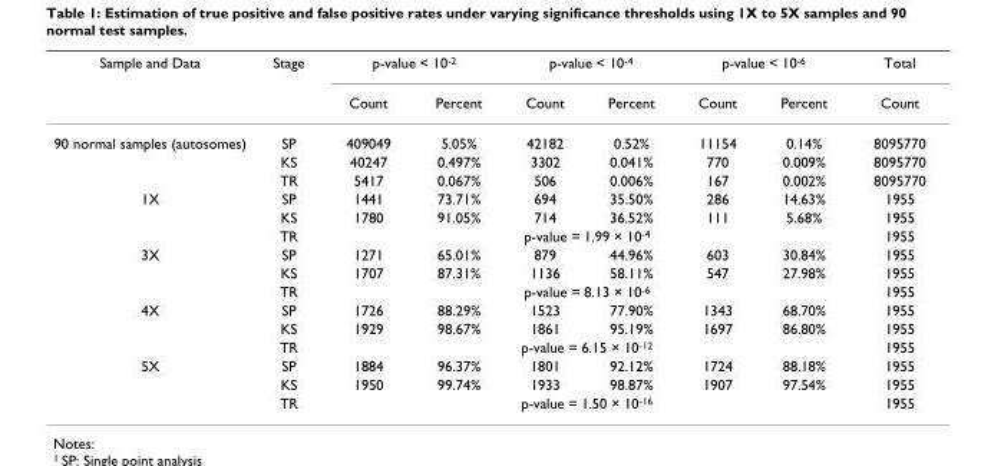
<table><thead><tr><td rowspan="2">Sample and Data</td><td rowspan="2">Stage</td><td colspan="2">p-value &lt; 10<sup>-2</sup></td><td colspan="2">p-value &lt; 10<sup>-4</sup></td><td colspan="2">p-value &lt; 10<sup>-6</sup></td><td rowspan="2">Total Count</td></tr><tr><td>Count</td><td>Percent</td><td>Count</td><td>Percent</td><td>Count</td><td>Percent</td></tr></thead><tbody><tr><td rowspan="3">90 normal samples (autosomes)</td><td>SP</td><td>409049</td><td>5.05%</td><td>42182</td><td>0.52%</td><td>11154</td><td>0.14%</td><td>8095770</td></tr><tr><td>KS</td><td>40247</td><td>0.497%</td><td>3302</td><td>0.041%</td><td>770</td><td>0.009%</td><td>8095770</td></tr><tr><td>TR</td><td>5417</td><td>0.067%</td><td>506</td><td>0.006%</td><td>167</td><td>0.002%</td><td>8095770</td></tr><tr><td rowspan="3">1X</td><td>SP</td><td>1441</td><td>73.71%</td><td>694</td><td>35.50%</td><td>286</td><td>14.63%</td><td>1955</td></tr><tr><td>KS</td><td>1780</td><td>91.05%</td><td>714</td><td>36.52%</td><td>111</td><td>5.68%</td><td>1955</td></tr><tr><td>TR</td><td colspan="6">p-value = 1.99 × 10<sup>-4</sup></td><td>1955</td></tr><tr><td rowspan="3">3X</td><td>SP</td><td>1271</td><td>65.01%</td><td>879</td><td>44.96%</td><td>603</td><td>30.84%</td><td>1955</td></tr><tr><td>KS</td><td>1707</td><td>87.31%</td><td>1136</td><td>58.11%</td><td>547</td><td>27.98%</td><td>1955</td></tr><tr><td>TR</td><td colspan="6">p-value = 8.13 × 10<sup>-6</sup></td><td>1955</td></tr><tr><td rowspan="3">4X</td><td>SP</td><td>1726</td><td>88.29%</td><td>1523</td><td>77.90%</td><td>1343</td><td>68.70%</td><td>1955</td></tr><tr><td>KS</td><td>1929</td><td>98.67%</td><td>1861</td><td>95.19%</td><td>1697</td><td>86.80%</td><td>1955</td></tr><tr><td>TR</td><td colspan="6">p-value = 6.15 × 10<sup>-12</sup></td><td>1955</td></tr><tr><td rowspan="3">5X</td><td>SP</td><td>1884</td><td>96.37%</td><td>1801</td><td>92.12%</td><td>1724</td><td>88.18%</td><td>1955</td></tr><tr><td>KS</td><td>1950</td><td>99.74%</td><td>1933</td><td>98.87%</td><td>1907</td><td>97.54%</td><td>1955</td></tr><tr><td>TR</td><td colspan="6">p-value = 1.50 × 10<sup>-16</sup></td><td>1955</td></tr></tbody></table>